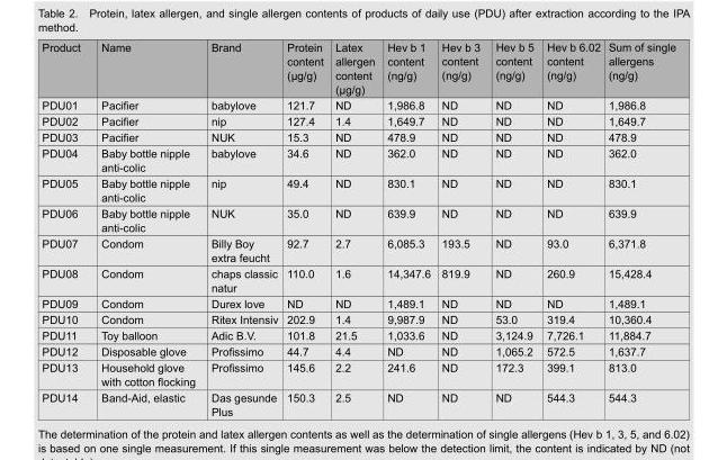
<table><thead><tr><td>Product</td><td>Name</td><td>Brand</td><td>Protein content (µg/g)</td><td>Latex allergen content (µg/g)</td><td>Hev b 1 content (ng/g)</td><td>Hev b 3 content (ng/g)</td><td>Hev b 5 content (ng/g)</td><td>Hev b 6.02 content (ng/g)</td><td>Sum of single allergens (ng/g)</td></tr></thead><tbody><tr><td>PDU01</td><td>Pacifier</td><td>babylove</td><td>121.7</td><td>ND</td><td>1,986.8</td><td>ND</td><td>ND</td><td>ND</td><td>1,986.8</td></tr><tr><td>PDU02</td><td>Pacifier</td><td>nip</td><td>127.4</td><td>1.4</td><td>1,649.7</td><td>ND</td><td>ND</td><td>ND</td><td>1,649.7</td></tr><tr><td>PDU03</td><td>Pacifier</td><td>NUK</td><td>15.3</td><td>ND</td><td>478.9</td><td>ND</td><td>ND</td><td>ND</td><td>478.9</td></tr><tr><td>PDU04</td><td>Baby bottle nipple anti-colic</td><td>babylove</td><td>34.6</td><td>ND</td><td>362.0</td><td>ND</td><td>ND</td><td>ND</td><td>362.0</td></tr><tr><td>PDU05</td><td>Baby bottle nipple anti-colic</td><td>nip</td><td>49.4</td><td>ND</td><td>830.1</td><td>ND</td><td>ND</td><td>ND</td><td>830.1</td></tr><tr><td>PDU06</td><td>Baby bottle nipple anti-colic</td><td>NUK</td><td>35.0</td><td>ND</td><td>639.9</td><td>ND</td><td>ND</td><td>ND</td><td>639.9</td></tr><tr><td>PDU07</td><td>Condom</td><td>Billy Boy extra feucht</td><td>92.7</td><td>2.7</td><td>6,085.3</td><td>193.5</td><td>ND</td><td>93.0</td><td>6,371.8</td></tr><tr><td>PDU08</td><td>Condom</td><td>chaps classic natur</td><td>110.0</td><td>1.6</td><td>14,347.6</td><td>819.9</td><td>ND</td><td>260.9</td><td>15,428.4</td></tr><tr><td>PDU09</td><td>Condom</td><td>Durex love</td><td>ND</td><td>ND</td><td>1,489.1</td><td>ND</td><td>ND</td><td>ND</td><td>1,489.1</td></tr><tr><td>PDU10</td><td>Condom</td><td>Ritex Intensiv</td><td>202.9</td><td>1.4</td><td>9,987.9</td><td>ND</td><td>53.0</td><td>319.4</td><td>10,360.4</td></tr><tr><td>PDU11</td><td>Toy balloon</td><td>Adic B.V.</td><td>101.8</td><td>21.5</td><td>1,033.6</td><td>ND</td><td>3,124.9</td><td>7,726.1</td><td>11,884.7</td></tr><tr><td>PDU12</td><td>Disposable glove</td><td>Profissimo</td><td>44.7</td><td>4.4</td><td>ND</td><td>ND</td><td>1,065.2</td><td>572.5</td><td>1,637.7</td></tr><tr><td>PDU13</td><td>Household glove with cotton flocking</td><td>Profissimo</td><td>145.6</td><td>2.2</td><td>241.6</td><td>ND</td><td>172.3</td><td>399.1</td><td>813.0</td></tr><tr><td>PDU14</td><td>Band-Aid, elastic</td><td>Das gesunde Plus</td><td>150.3</td><td>2.5</td><td>ND</td><td>ND</td><td>ND</td><td>544.3</td><td>544.3</td></tr></tbody></table>